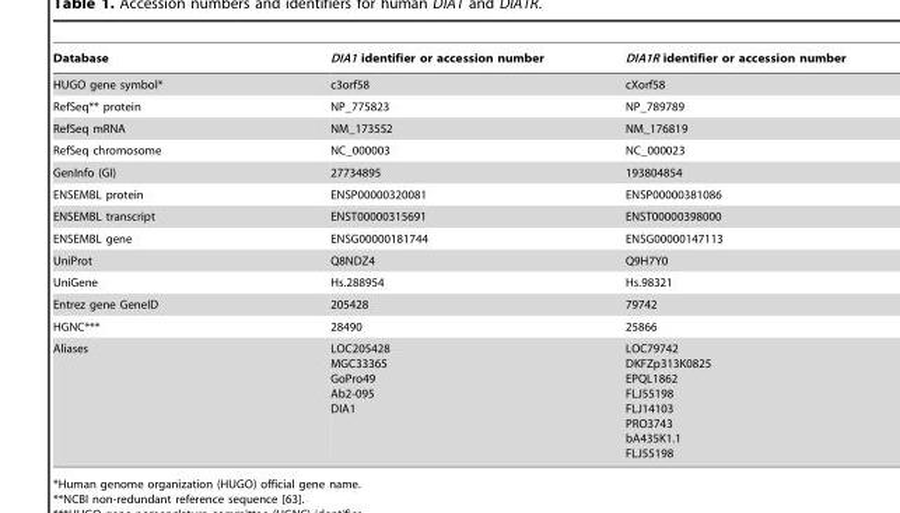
<table><thead><tr><td>Database</td><td>DIA1 identifier or accession number</td><td>DIA1R identifier or accession number</td></tr></thead><tbody><tr><td>HUGO gene symbol*</td><td>c3orf58</td><td>cXorf58</td></tr><tr><td>RefSeq** protein</td><td>NP_775823</td><td>NP_789789</td></tr><tr><td>RefSeq mRNA</td><td>NM_173552</td><td>NM_176819</td></tr><tr><td>RefSeq chromosome</td><td>NC_000003</td><td>NC_000023</td></tr><tr><td>GenInfo (GI)</td><td>27734895</td><td>193804854</td></tr><tr><td>ENSEMBL protein</td><td>ENSP00000320081</td><td>ENSP00000381086</td></tr><tr><td>ENSEMBL transcript</td><td>ENST00000315691</td><td>ENST00000398000</td></tr><tr><td>ENSEMBL gene</td><td>ENSG00000181744</td><td>ENSG00000147113</td></tr><tr><td>UniProt</td><td>Q8NDZ4</td><td>Q9H7Y0</td></tr><tr><td>UniGene</td><td>Hs.288954</td><td>Hs.98321</td></tr><tr><td>Entrez gene GeneID</td><td>205428</td><td>79742</td></tr><tr><td>HGNC***</td><td>28490</td><td>25866</td></tr><tr><td>Aliases</td><td>LOC205428 MGC33365 GoPro49 Ab2-095 DIA1</td><td>LOC79742 DKFZp313K0825 EPQL1862 FLJ55198 FLJ14103 PRO3743 bA435K1.1 FLJ55198</td></tr></tbody></table>